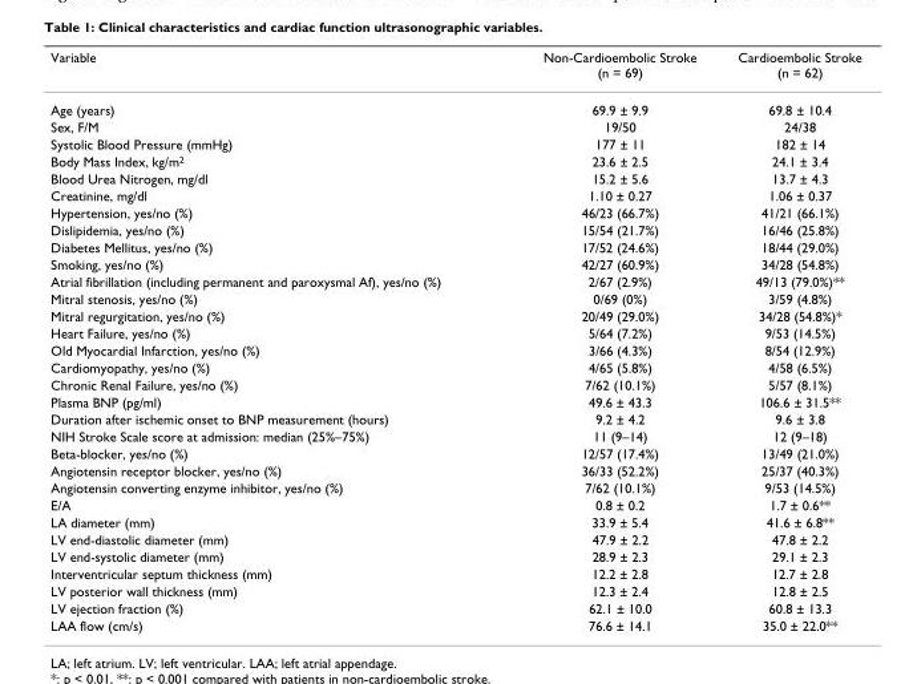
<table><thead><tr><td>Variable</td><td>Non-Cardioembolic Stroke (n = 69)</td><td>Cardioembolic Stroke (n = 62)</td></tr></thead><tbody><tr><td>Age (years)</td><td>69.9 ± 9.9</td><td>69.8 ± 10.4</td></tr><tr><td>Sex, F/M</td><td>19/50</td><td>24/38</td></tr><tr><td>Systolic Blood Pressure (mmHg)</td><td>177 ± 11</td><td>182 ± 14</td></tr><tr><td>Body Mass Index, kg/m<sup>2</sup></td><td>23.6 ± 2.5</td><td>24.1 ± 3.4</td></tr><tr><td>Blood Urea Nitrogen, mg/dl</td><td>15.2 ± 5.6</td><td>13.7 ± 4.3</td></tr><tr><td>Creatinine, mg/dl</td><td>1.10 ± 0.27</td><td>1.06 ± 0.37</td></tr><tr><td>Hypertension, yes/no (%)</td><td>46/23 (66.7%)</td><td>41/21 (66.1%)</td></tr><tr><td>Dislipidemia, yes/no (%)</td><td>15/54 (21.7%)</td><td>16/46 (25.8%)</td></tr><tr><td>Diabetes Mellitus, yes/no (%)</td><td>17/52 (24.6%)</td><td>18/44 (29.0%)</td></tr><tr><td>Smoking, yes/no (%)</td><td>42/27 (60.9%)</td><td>34/28 (54.8%)</td></tr><tr><td>Atrial fibrillation (including permanent and paroxysmal Af), yes/no (%)</td><td>2/67 (2.9%)</td><td>49/13 (79.0%)**</td></tr><tr><td>Mitral stenosis, yes/no (%)</td><td>0/69 (0%)</td><td>3/59 (4.8%)</td></tr><tr><td>Mitral regurgitation, yes/no (%)</td><td>20/49 (29.0%)</td><td>34/28 (54.8%)*</td></tr><tr><td>Heart Failure, yes/no (%)</td><td>5/64 (7.2%)</td><td>9/53 (14.5%)</td></tr><tr><td>Old Myocardial Infarction, yes/no (%)</td><td>3/66 (4.3%)</td><td>8/54 (12.9%)</td></tr><tr><td>Cardiomyopathy, yes/no (%)</td><td>4/65 (5.8%)</td><td>4/58 (6.5%)</td></tr><tr><td>Chronic Renal Failure, yes/no (%)</td><td>7/62 (10.1%)</td><td>5/57 (8.1%)</td></tr><tr><td>Plasma BNP (pg/ml)</td><td>49.6 ± 43.3</td><td>106.6 ± 31.5**</td></tr><tr><td>Duration after ischemic onset to BNP measurement (hours)</td><td>9.2 ± 4.2</td><td>9.6 ± 3.8</td></tr><tr><td>NIH Stroke Scale score at admission: median (25%–75%)</td><td>11 (9–14)</td><td>12 (9–18)</td></tr><tr><td>Beta-blocker, yes/no (%)</td><td>12/57 (17.4%)</td><td>13/49 (21.0%)</td></tr><tr><td>Angiotensin receptor blocker, yes/no (%)</td><td>36/33 (52.2%)</td><td>25/37 (40.3%)</td></tr><tr><td>Angiotensin converting enzyme inhibitor, yes/no (%)</td><td>7/62 (10.1%)</td><td>9/53 (14.5%)</td></tr><tr><td>E/A</td><td>0.8 ± 0.2</td><td>1.7 ± 0.6**</td></tr><tr><td>LA diameter (mm)</td><td>33.9 ± 5.4</td><td>41.6 ± 6.8**</td></tr><tr><td>LV end-diastolic diameter (mm)</td><td>47.9 ± 2.2</td><td>47.8 ± 2.2</td></tr><tr><td>LV end-systolic diameter (mm)</td><td>28.9 ± 2.3</td><td>29.1 ± 2.3</td></tr><tr><td>Interventricular septum thickness (mm)</td><td>12.2 ± 2.8</td><td>12.7 ± 2.8</td></tr><tr><td>LV posterior wall thickness (mm)</td><td>12.3 ± 2.4</td><td>12.8 ± 2.5</td></tr><tr><td>LV ejection fraction (%)</td><td>62.1 ± 10.0</td><td>60.8 ± 13.3</td></tr><tr><td>LAA flow (cm/s)</td><td>76.6 ± 14.1</td><td>35.0 ± 22.0**</td></tr></tbody></table>